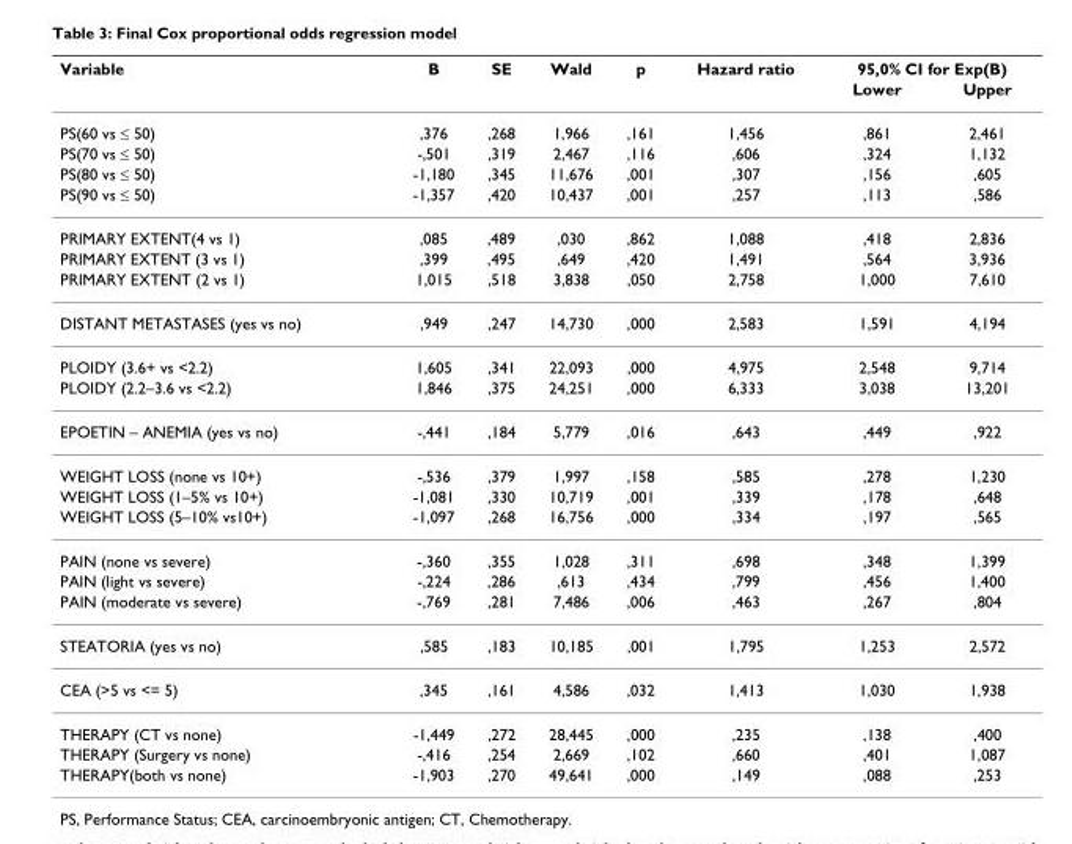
<table><thead><tr><td rowspan="2">Variable</td><td rowspan="2">B</td><td rowspan="2">SE</td><td rowspan="2">Wald</td><td rowspan="2">p</td><td rowspan="2">Hazard ratio</td><td colspan="2">95,0% CI for Exp(B)</td></tr><tr><td>Lower</td><td>Upper</td></tr></thead><tbody><tr><td>PS(60 vs ≤ 50)</td><td>,376</td><td>,268</td><td>1,966</td><td>,161</td><td>1,456</td><td>,861</td><td>2,461</td></tr><tr><td>PS(70 vs ≤ 50)</td><td>-,501</td><td>,319</td><td>2,467</td><td>,116</td><td>,606</td><td>,324</td><td>1,132</td></tr><tr><td>PS(80 vs ≤ 50)</td><td>-1,180</td><td>,345</td><td>11,676</td><td>,001</td><td>,307</td><td>,156</td><td>,605</td></tr><tr><td>PS(90 vs ≤ 50)</td><td>-1,357</td><td>,420</td><td>10,437</td><td>,001</td><td>,257</td><td>,113</td><td>,586</td></tr><tr><td>PRIMARY EXTENT(4 vs 1)</td><td>,085</td><td>,489</td><td>,030</td><td>,862</td><td>1,088</td><td>,418</td><td>2,836</td></tr><tr><td>PRIMARY EXTENT (3 vs 1)</td><td>,399</td><td>,495</td><td>,649</td><td>,420</td><td>1,491</td><td>,564</td><td>3,936</td></tr><tr><td>PRIMARY EXTENT (2 vs 1)</td><td>1,015</td><td>,518</td><td>3,838</td><td>,050</td><td>2,758</td><td>1,000</td><td>7,610</td></tr><tr><td>DISTANT METASTASES (yes vs no)</td><td>,949</td><td>,247</td><td>14,730</td><td>,000</td><td>2,583</td><td>1,591</td><td>4,194</td></tr><tr><td>PLOIDY (3.6+ vs &lt;2.2)</td><td>1,605</td><td>,341</td><td>22,093</td><td>,000</td><td>4,975</td><td>2,548</td><td>9,714</td></tr><tr><td>PLOIDY (2.2–3.6 vs &lt;2.2)</td><td>1,846</td><td>,375</td><td>24,251</td><td>,000</td><td>6,333</td><td>3,038</td><td>13,201</td></tr><tr><td>EPOETIN – ANEMIA (yes vs no)</td><td>-,441</td><td>,184</td><td>5,779</td><td>,016</td><td>,643</td><td>,449</td><td>,922</td></tr><tr><td>WEIGHT LOSS (none vs 10+)</td><td>-,536</td><td>,379</td><td>1,997</td><td>,158</td><td>,585</td><td>,278</td><td>1,230</td></tr><tr><td>WEIGHT LOSS (1–5% vs 10+)</td><td>-1,081</td><td>,330</td><td>10,719</td><td>,001</td><td>,339</td><td>,178</td><td>,648</td></tr><tr><td>WEIGHT LOSS (5–10% vs10+)</td><td>-1,097</td><td>,268</td><td>16,756</td><td>,000</td><td>,334</td><td>,197</td><td>,565</td></tr><tr><td>PAIN (none vs severe)</td><td>-,360</td><td>,355</td><td>1,028</td><td>,311</td><td>,698</td><td>,348</td><td>1,399</td></tr><tr><td>PAIN (light vs severe)</td><td>-,224</td><td>,286</td><td>,613</td><td>,434</td><td>,799</td><td>,456</td><td>1,400</td></tr><tr><td>PAIN (moderate vs severe)</td><td>-,769</td><td>,281</td><td>7,486</td><td>,006</td><td>,463</td><td>,267</td><td>,804</td></tr><tr><td>STEATORIA (yes vs no)</td><td>,585</td><td>,183</td><td>10,185</td><td>,001</td><td>1,795</td><td>1,253</td><td>2,572</td></tr><tr><td>CEA (&gt;5 vs &lt;= 5)</td><td>,345</td><td>,161</td><td>4,586</td><td>,032</td><td>1,413</td><td>1,030</td><td>1,938</td></tr><tr><td>THERAPY (CT vs none)</td><td>-1,449</td><td>,272</td><td>28,445</td><td>,000</td><td>,235</td><td>,138</td><td>,400</td></tr><tr><td>THERAPY (Surgery vs none)</td><td>-,416</td><td>,254</td><td>2,669</td><td>,102</td><td>,660</td><td>,401</td><td>1,087</td></tr><tr><td>THERAPY(both vs none)</td><td>-1,903</td><td>,270</td><td>49,641</td><td>,000</td><td>,149</td><td>,088</td><td>,253</td></tr></tbody></table>